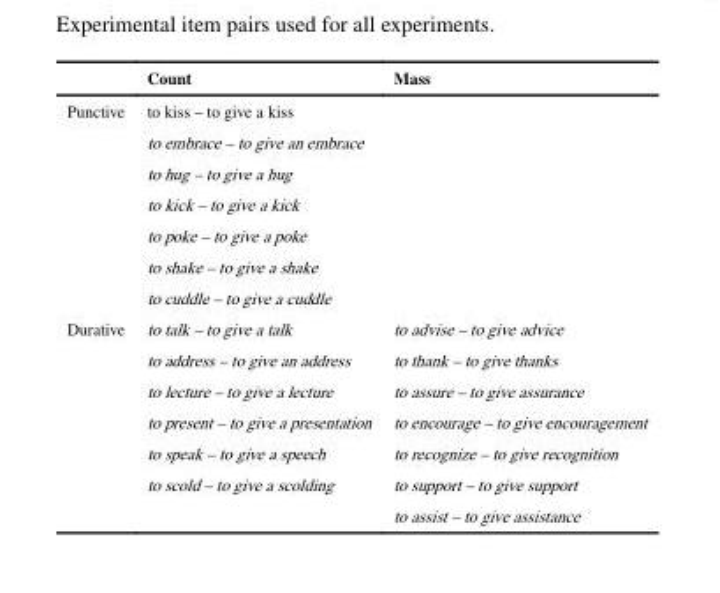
<table><thead><tr><td></td><td>Count</td><td>Mass</td></tr></thead><tbody><tr><td rowspan="7">Punctive</td><td>to kiss – to give a kiss</td><td></td></tr><tr><td>to embrace – to give an embrace</td><td></td></tr><tr><td>to hug – to give a hug</td><td></td></tr><tr><td>to kick – to give a kick</td><td></td></tr><tr><td>to poke – to give a poke</td><td></td></tr><tr><td>to shake – to give a shake</td><td></td></tr><tr><td>to cuddle – to give a cuddle</td><td></td></tr><tr><td rowspan="7">Durative</td><td>to talk – to give a talk</td><td>to advise – to give advice</td></tr><tr><td>to address – to give an address</td><td>to thank – to give thanks</td></tr><tr><td>to lecture – to give a lecture</td><td>to assure – to give assurance</td></tr><tr><td>to present – to give a presentation</td><td>to encourage – to give encouragement</td></tr><tr><td>to speak – to give a speech</td><td>to recognize – to give recognition</td></tr><tr><td>to scold – to give a scolding</td><td>to support – to give support</td></tr><tr><td></td><td>to assist – to give assistance</td></tr></tbody></table>